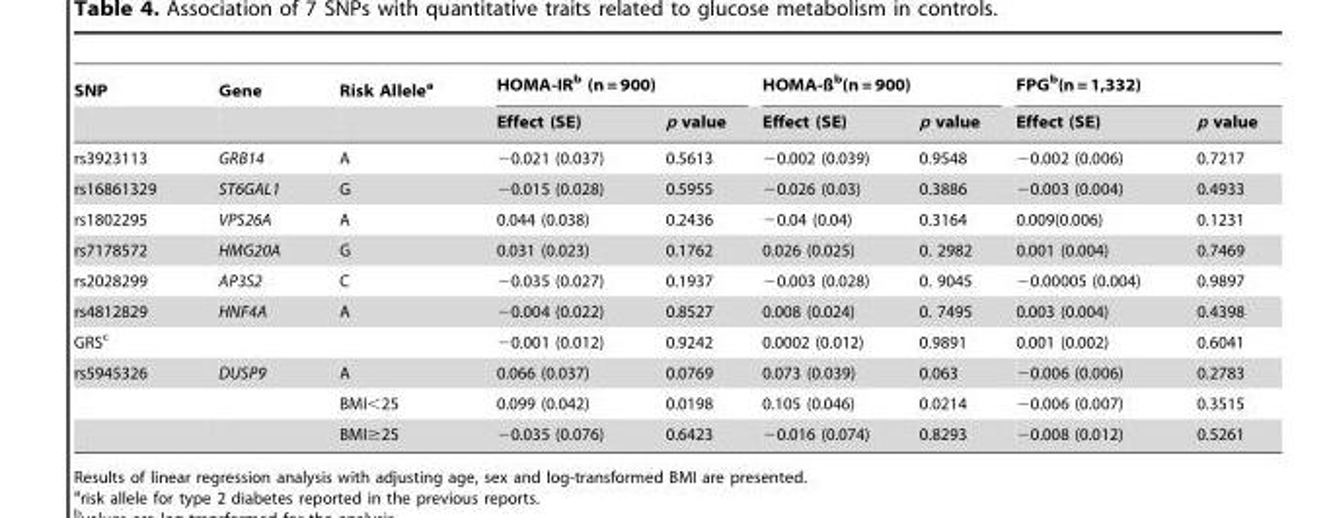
<table><thead><tr><td rowspan="2">SNP</td><td rowspan="2">Gene</td><td rowspan="2">Risk Allele<sup>a</sup></td><td colspan="2">HOMA-IR<sup>b</sup> (n = 900)</td><td colspan="2">HOMA-ß<sup>b</sup>(n = 900)</td><td colspan="2">FPG<sup>b</sup>(n = 1,332)</td></tr><tr><td>Effect (SE)</td><td>p value</td><td>Effect (SE)</td><td>p value</td><td>Effect (SE)</td><td>p value</td></tr></thead><tbody><tr><td>rs3923113</td><td>GRB14</td><td>A</td><td>−0.021 (0.037)</td><td>0.5613</td><td>−0.002 (0.039)</td><td>0.9548</td><td>−0.002 (0.006)</td><td>0.7217</td></tr><tr><td>rs16861329</td><td>ST6GAL1</td><td>G</td><td>−0.015 (0.028)</td><td>0.5955</td><td>−0.026 (0.03)</td><td>0.3886</td><td>−0.003 (0.004)</td><td>0.4933</td></tr><tr><td>rs1802295</td><td>VPS26A</td><td>A</td><td>0.044 (0.038)</td><td>0.2436</td><td>−0.04 (0.04)</td><td>0.3164</td><td>0.009(0.006)</td><td>0.1231</td></tr><tr><td>rs7178572</td><td>HMG20A</td><td>G</td><td>0.031 (0.023)</td><td>0.1762</td><td>0.026 (0.025)</td><td>0. 2982</td><td>0.001 (0.004)</td><td>0.7469</td></tr><tr><td>rs2028299</td><td>AP3S2</td><td>C</td><td>−0.035 (0.027)</td><td>0.1937</td><td>−0.003 (0.028)</td><td>0. 9045</td><td>−0.00005 (0.004)</td><td>0.9897</td></tr><tr><td>rs4812829</td><td>HNF4A</td><td>A</td><td>−0.004 (0.022)</td><td>0.8527</td><td>0.008 (0.024)</td><td>0. 7495</td><td>0.003 (0.004)</td><td>0.4398</td></tr><tr><td>GRS<sup>c</sup></td><td></td><td></td><td>−0.001 (0.012)</td><td>0.9242</td><td>0.0002 (0.012)</td><td>0.9891</td><td>0.001 (0.002)</td><td>0.6041</td></tr><tr><td rowspan="3">rs5945326</td><td>DUSP9</td><td>A</td><td>0.066 (0.037)</td><td>0.0769</td><td>0.073 (0.039)</td><td>0.063</td><td>−0.006 (0.006)</td><td>0.2783</td></tr><tr><td></td><td>BMI&lt;25</td><td>0.099 (0.042)</td><td>0.0198</td><td>0.105 (0.046)</td><td>0.0214</td><td>−0.006 (0.007)</td><td>0.3515</td></tr><tr><td></td><td>BMI≥25</td><td>−0.035 (0.076)</td><td>0.6423</td><td>−0.016 (0.074)</td><td>0.8293</td><td>−0.008 (0.012)</td><td>0.5261</td></tr></tbody></table>